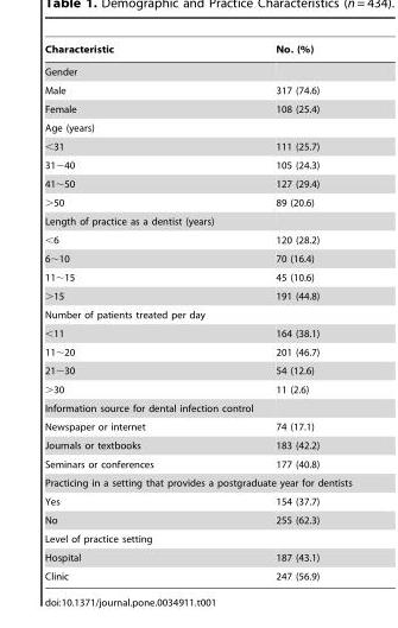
<table><thead><tr><td>Characteristic</td><td>No. (%)</td></tr></thead><tbody><tr><td colspan="2">Gender</td></tr><tr><td>Male</td><td>317 (74.6)</td></tr><tr><td>Female</td><td>108 (25.4)</td></tr><tr><td colspan="2">Age (years)</td></tr><tr><td>&lt;31</td><td>111 (25.7)</td></tr><tr><td>31∼40</td><td>105 (24.3)</td></tr><tr><td>41∼50</td><td>127 (29.4)</td></tr><tr><td>&gt;50</td><td>89 (20.6)</td></tr><tr><td colspan="2">Length of practice as a dentist (years)</td></tr><tr><td>&lt;6</td><td>120 (28.2)</td></tr><tr><td>6∼10</td><td>70 (16.4)</td></tr><tr><td>11∼15</td><td>45 (10.6)</td></tr><tr><td>&gt;15</td><td>191 (44.8)</td></tr><tr><td colspan="2">Number of patients treated per day</td></tr><tr><td>&lt;11</td><td>164 (38.1)</td></tr><tr><td>11∼20</td><td>201 (46.7)</td></tr><tr><td>21∼30</td><td>54 (12.6)</td></tr><tr><td>&gt;30</td><td>11 (2.6)</td></tr><tr><td colspan="2">Information source for dental infection control</td></tr><tr><td>Newspaper or internet</td><td>74 (17.1)</td></tr><tr><td>Journals or textbooks</td><td>183 (42.2)</td></tr><tr><td>Seminars or conferences</td><td>177 (40.8)</td></tr><tr><td colspan="2">Practicing in a setting that provides a postgraduate year for dentists</td></tr><tr><td>Yes</td><td>154 (37.7)</td></tr><tr><td>No</td><td>255 (62.3)</td></tr><tr><td colspan="2">Level of practice setting</td></tr><tr><td>Hospital</td><td>187 (43.1)</td></tr><tr><td>Clinic</td><td>247 (56.9)</td></tr></tbody></table>